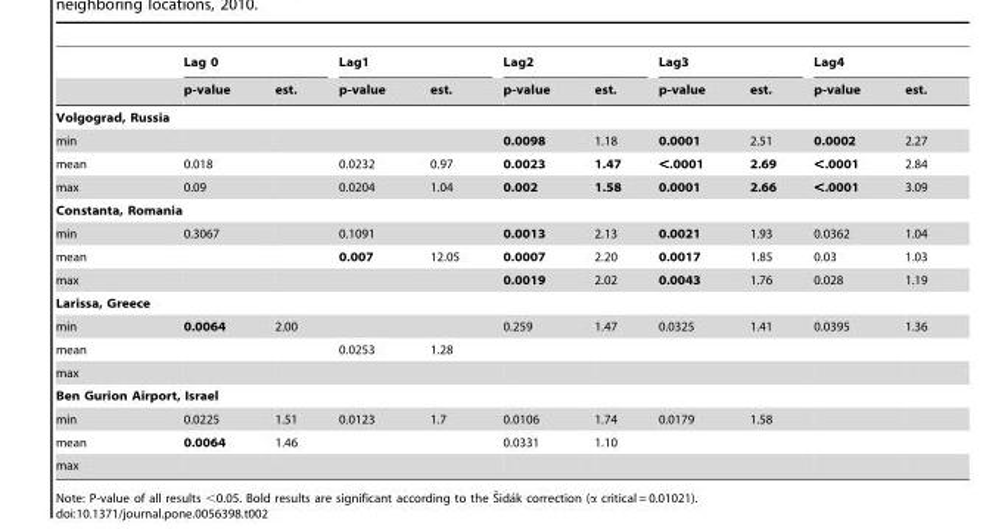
<table><thead><tr><td rowspan="2"></td><td colspan="2">Lag 0</td><td colspan="2">Lag1</td><td colspan="2">Lag2</td><td colspan="2">Lag3</td><td colspan="2">Lag4</td></tr><tr><td>p-value</td><td>est.</td><td>p-value</td><td>est.</td><td>p-value</td><td>est.</td><td>p-value</td><td>est.</td><td>p-value</td><td>est.</td></tr></thead><tbody><tr><td colspan="11">Volgograd, Russia</td></tr><tr><td>min</td><td></td><td></td><td></td><td></td><td>0.0098</td><td>1.18</td><td>0.0001</td><td>2.51</td><td>0.0002</td><td>2.27</td></tr><tr><td>mean</td><td>0.018</td><td></td><td>0.0232</td><td>0.97</td><td>0.0023</td><td>1.47</td><td>&lt;.0001</td><td>2.69</td><td>&lt;.0001</td><td>2.84</td></tr><tr><td>max</td><td>0.09</td><td></td><td>0.0204</td><td>1.04</td><td>0.002</td><td>1.58</td><td>0.0001</td><td>2.66</td><td>&lt;.0001</td><td>3.09</td></tr><tr><td colspan="11">Constanta, Romania</td></tr><tr><td>min</td><td>0.3067</td><td></td><td>0.1091</td><td></td><td>0.0013</td><td>2.13</td><td>0.0021</td><td>1.93</td><td>0.0362</td><td>1.04</td></tr><tr><td>mean</td><td></td><td></td><td>0.007</td><td>12.05</td><td>0.0007</td><td>2.20</td><td>0.0017</td><td>1.85</td><td>0.03</td><td>1.03</td></tr><tr><td>max</td><td></td><td></td><td></td><td></td><td>0.0019</td><td>2.02</td><td>0.0043</td><td>1.76</td><td>0.028</td><td>1.19</td></tr><tr><td colspan="11">Larissa, Greece</td></tr><tr><td>min</td><td>0.0064</td><td>2.00</td><td></td><td></td><td>0.259</td><td>1.47</td><td>0.0325</td><td>1.41</td><td>0.0395</td><td>1.36</td></tr><tr><td>mean</td><td></td><td></td><td>0.0253</td><td>1.28</td><td></td><td></td><td></td><td></td><td></td><td></td></tr><tr><td colspan="11">max</td></tr><tr><td colspan="11">Ben Gurion Airport, Israel</td></tr><tr><td>min</td><td>0.0225</td><td>1.51</td><td>0.0123</td><td>1.7</td><td>0.0106</td><td>1.74</td><td>0.0179</td><td>1.58</td><td></td><td></td></tr><tr><td>mean</td><td>0.0064</td><td>1.46</td><td></td><td></td><td>0.0331</td><td>1.10</td><td></td><td></td><td></td><td></td></tr><tr><td>max</td><td></td><td></td><td></td><td></td><td></td><td></td><td></td><td></td><td></td><td></td></tr></tbody></table>